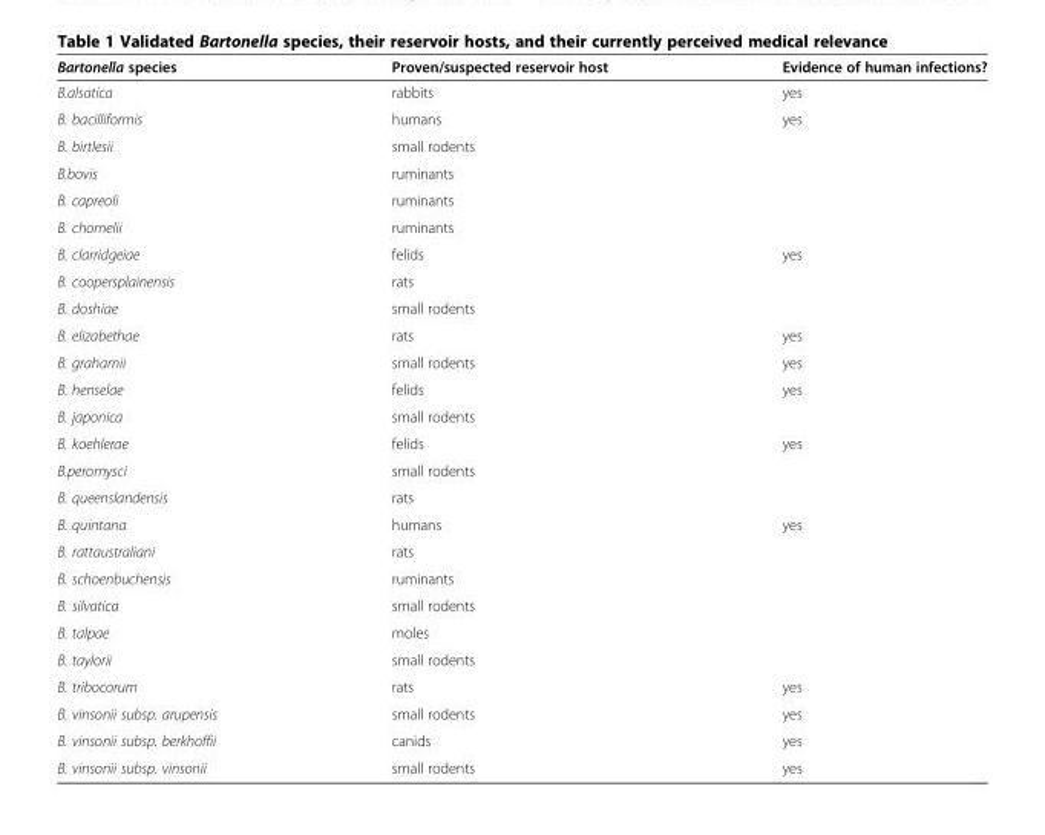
<table><thead><tr><td>Bartonella species</td><td>Proven/suspected reservoir host</td><td>Evidence of human infections?</td></tr></thead><tbody><tr><td>B.alsatica</td><td>rabbits</td><td>yes</td></tr><tr><td>B. bacilliformis</td><td>humans</td><td>yes</td></tr><tr><td>B. birtlesii</td><td>small rodents</td><td></td></tr><tr><td>B.bovis</td><td>ruminants</td><td></td></tr><tr><td>B. capreoli</td><td>ruminants</td><td></td></tr><tr><td>B. chomelii</td><td>ruminants</td><td></td></tr><tr><td>B. clarridgeiae</td><td>felids</td><td>yes</td></tr><tr><td>B. coopersplainensis</td><td>rats</td><td></td></tr><tr><td>B. doshiae</td><td>small rodents</td><td></td></tr><tr><td>B. elizabethae</td><td>rats</td><td>yes</td></tr><tr><td>B. grahamii</td><td>small rodents</td><td>yes</td></tr><tr><td>B. henselae</td><td>felids</td><td>yes</td></tr><tr><td>B. japonica</td><td>small rodents</td><td></td></tr><tr><td>B. koehlerae</td><td>felids</td><td>yes</td></tr><tr><td>B.peromysci</td><td>small rodents</td><td></td></tr><tr><td>B. queenslandensis</td><td>rats</td><td></td></tr><tr><td>B. quintana</td><td>humans</td><td>yes</td></tr><tr><td>B. rattaustraliani</td><td>rats</td><td></td></tr><tr><td>B. schoenbuchensis</td><td>ruminants</td><td></td></tr><tr><td>B. silvatica</td><td>small rodents</td><td></td></tr><tr><td>B. talpae</td><td>moles</td><td></td></tr><tr><td>B. taylorii</td><td>small rodents</td><td></td></tr><tr><td>B. tribocorum</td><td>rats</td><td>yes</td></tr><tr><td>B. vinsonii subsp. arupensis</td><td>small rodents</td><td>yes</td></tr><tr><td>B. vinsonii subsp. berkhoffii</td><td>canids</td><td>yes</td></tr><tr><td>B. vinsonii subsp. vinsonii</td><td>small rodents</td><td>yes</td></tr></tbody></table>